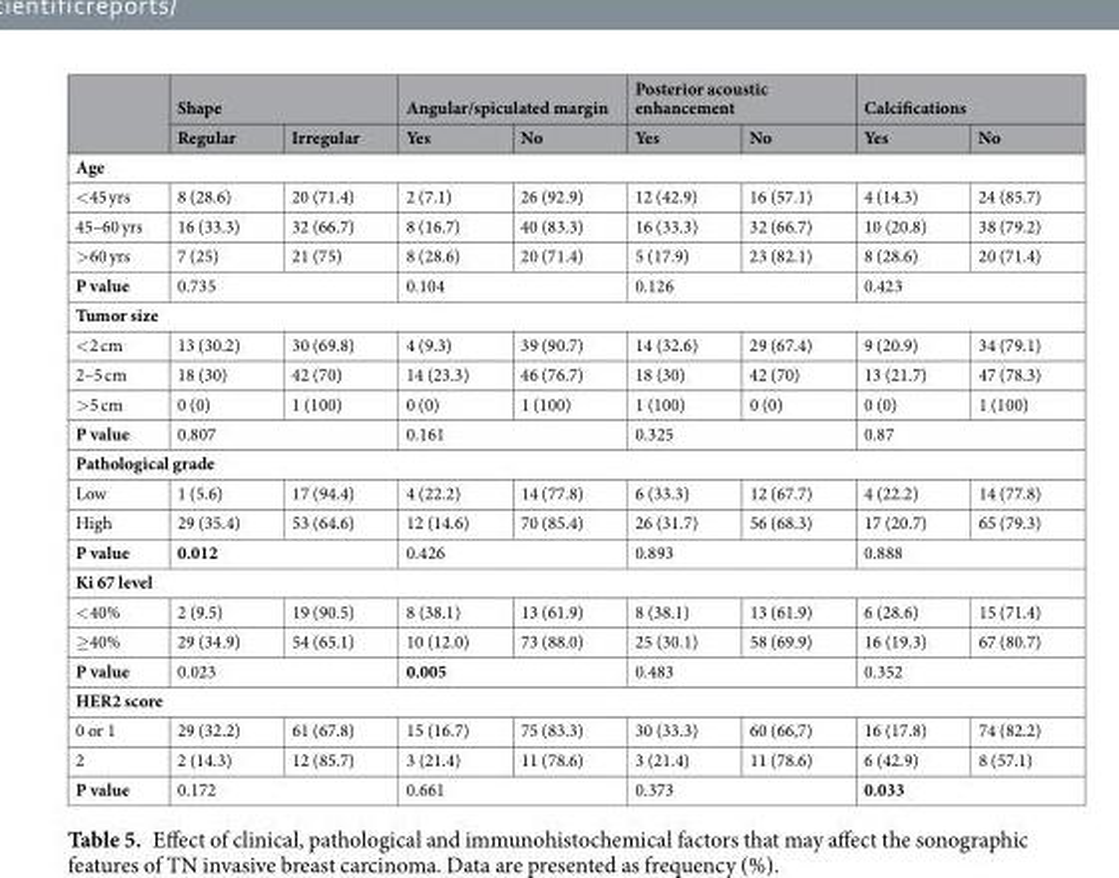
<table><thead><tr><td rowspan="2"></td><td colspan="2">Shape</td><td colspan="2">Angular/spiculated margin</td><td colspan="2">Posterior acoustic enhancement</td><td colspan="2">Calcifications</td></tr><tr><td>Regular</td><td>Irregular</td><td>Yes</td><td>No</td><td>Yes</td><td>No</td><td>Yes</td><td>No</td></tr></thead><tbody><tr><td colspan="9">Age</td></tr><tr><td>&lt;45 yrs</td><td>8 (28.6)</td><td>20 (71.4)</td><td>2 (7.1)</td><td>26 (92.9)</td><td>12 (42.9)</td><td>16 (57.1)</td><td>4 (14.3)</td><td>24 (85.7)</td></tr><tr><td>45–60 yrs</td><td>16 (33.3)</td><td>32 (66.7)</td><td>8 (16.7)</td><td>40 (83.3)</td><td>16 (33.3)</td><td>32 (66.7)</td><td>10 (20.8)</td><td>38 (79.2)</td></tr><tr><td>&gt;60 yrs</td><td>7 (25)</td><td>21 (75)</td><td>8 (28.6)</td><td>20 (71.4)</td><td>5 (17.9)</td><td>23 (82.1)</td><td>8 (28.6)</td><td>20 (71.4)</td></tr><tr><td>P value</td><td colspan="2">0.735</td><td colspan="2">0.104</td><td colspan="2">0.126</td><td colspan="2">0.423</td></tr><tr><td colspan="9">Tumor size</td></tr><tr><td>&lt;2 cm</td><td>13 (30.2)</td><td>30 (69.8)</td><td>4 (9.3)</td><td>39 (90.7)</td><td>14 (32.6)</td><td>29 (67.4)</td><td>9 (20.9)</td><td>34 (79.1)</td></tr><tr><td>2–5 cm</td><td>18 (30)</td><td>42 (70)</td><td>14 (23.3)</td><td>46 (76.7)</td><td>18 (30)</td><td>42 (70)</td><td>13 (21.7)</td><td>47 (78.3)</td></tr><tr><td>&gt;5 cm</td><td>0 (0)</td><td>1 (100)</td><td>0 (0)</td><td>1 (100)</td><td>1 (100)</td><td>0 (0)</td><td>0 (0)</td><td>1 (100)</td></tr><tr><td>P value</td><td colspan="2">0.807</td><td colspan="2">0.161</td><td colspan="2">0.325</td><td colspan="2">0.87</td></tr><tr><td colspan="9">Pathological grade</td></tr><tr><td>Low</td><td>1 (5.6)</td><td>17 (94.4)</td><td>4 (22.2)</td><td>14 (77.8)</td><td>6 (33.3)</td><td>12 (67.7)</td><td>4 (22.2)</td><td>14 (77.8)</td></tr><tr><td>High</td><td>29 (35.4)</td><td>53 (64.6)</td><td>12 (14.6)</td><td>70 (85.4)</td><td>26 (31.7)</td><td>56 (68.3)</td><td>17 (20.7)</td><td>65 (79.3)</td></tr><tr><td>P value</td><td colspan="2">0.012</td><td colspan="2">0.426</td><td colspan="2">0.893</td><td colspan="2">0.888</td></tr><tr><td colspan="9">Ki 67 level</td></tr><tr><td>&lt;40%</td><td>2 (9.5)</td><td>19 (90.5)</td><td>8 (38.1)</td><td>13 (61.9)</td><td>8 (38.1)</td><td>13 (61.9)</td><td>6 (28.6)</td><td>15 (71.4)</td></tr><tr><td>≥40%</td><td>29 (34.9)</td><td>54 (65.1)</td><td>10 (12.0)</td><td>73 (88.0)</td><td>25 (30.1)</td><td>58 (69.9)</td><td>16 (19.3)</td><td>67 (80.7)</td></tr><tr><td>P value</td><td colspan="2">0.023</td><td colspan="2">0.005</td><td colspan="2">0.483</td><td colspan="2">0.352</td></tr><tr><td colspan="9">HER2 score</td></tr><tr><td>0 or 1</td><td>29 (32.2)</td><td>61 (67.8)</td><td>15 (16.7)</td><td>75 (83.3)</td><td>30 (33.3)</td><td>60 (66,7)</td><td>16 (17.8)</td><td>74 (82.2)</td></tr><tr><td>2</td><td>2 (14.3)</td><td>12 (85.7)</td><td>3 (21.4)</td><td>11 (78.6)</td><td>3 (21.4)</td><td>11 (78.6)</td><td>6 (42.9)</td><td>8 (57.1)</td></tr><tr><td>P value</td><td colspan="2">0.172</td><td colspan="2">0.661</td><td colspan="2">0.373</td><td colspan="2">0.033</td></tr></tbody></table>